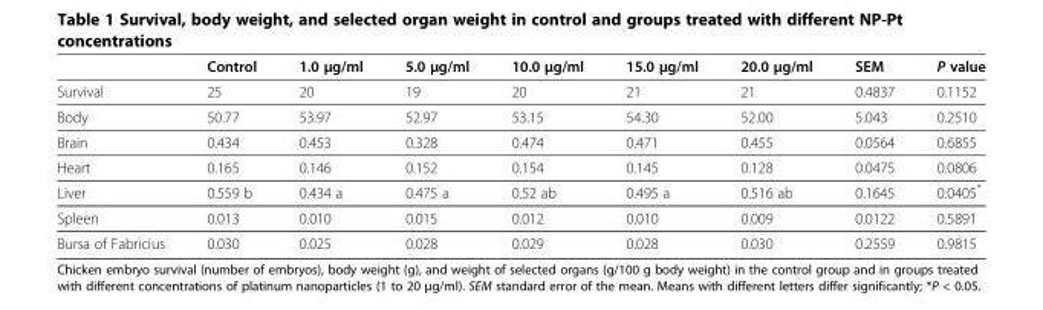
<table><thead><tr><td></td><td>Control</td><td>1.0 μg/ml</td><td>5.0 μg/ml</td><td>10.0 μg/ml</td><td>15.0 μg/ml</td><td>20.0 μg/ml</td><td>SEM</td><td>P value</td></tr></thead><tbody><tr><td>Survival</td><td>25</td><td>20</td><td>19</td><td>20</td><td>21</td><td>21</td><td>0.4837</td><td>0.1152</td></tr><tr><td>Body</td><td>50.77</td><td>53.97</td><td>52.97</td><td>53.15</td><td>54.30</td><td>52.00</td><td>5.043</td><td>0.2510</td></tr><tr><td>Brain</td><td>0.434</td><td>0.453</td><td>0.328</td><td>0.474</td><td>0.471</td><td>0.455</td><td>0.0564</td><td>0.6855</td></tr><tr><td>Heart</td><td>0.165</td><td>0.146</td><td>0.152</td><td>0.154</td><td>0.145</td><td>0.128</td><td>0.0475</td><td>0.0806</td></tr><tr><td>Liver</td><td>0.559 b</td><td>0.434 a</td><td>0.475 a</td><td>0.52 ab</td><td>0.495 a</td><td>0.516 ab</td><td>0.1645</td><td>0.0405*</td></tr><tr><td>Spleen</td><td>0.013</td><td>0.010</td><td>0.015</td><td>0.012</td><td>0.010</td><td>0.009</td><td>0.0122</td><td>0.5891</td></tr><tr><td>Bursa of Fabricius</td><td>0.030</td><td>0.025</td><td>0.028</td><td>0.029</td><td>0.028</td><td>0.030</td><td>0.2559</td><td>0.9815</td></tr></tbody></table>